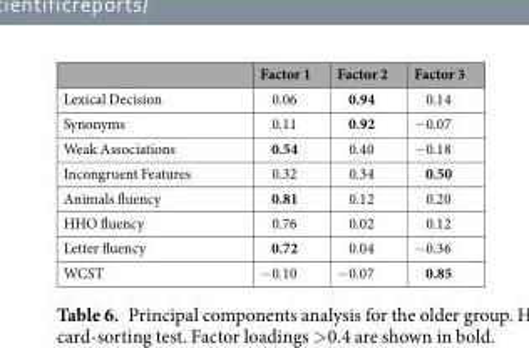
<table><thead><tr><td></td><td>Factor 1</td><td>Factor 2</td><td>Factor 3</td></tr></thead><tbody><tr><td>Lexical Decision</td><td>0.06</td><td>0.94</td><td>0.14</td></tr><tr><td>Synonyms</td><td>0.11</td><td>0.92</td><td>−0.07</td></tr><tr><td>Weak Associations</td><td>0.54</td><td>0.40</td><td>−0.18</td></tr><tr><td>Incongruent Features</td><td>0.32</td><td>0.34</td><td>0.50</td></tr><tr><td>Animals fluency</td><td>0.81</td><td>0.12</td><td>0.20</td></tr><tr><td>HHO fluency</td><td>0.76</td><td>0.02</td><td>0.12</td></tr><tr><td>Letter fluency</td><td>0.72</td><td>0.04</td><td>−0.36</td></tr><tr><td>WCST</td><td>−0.10</td><td>−0.07</td><td>0.85</td></tr></tbody></table>